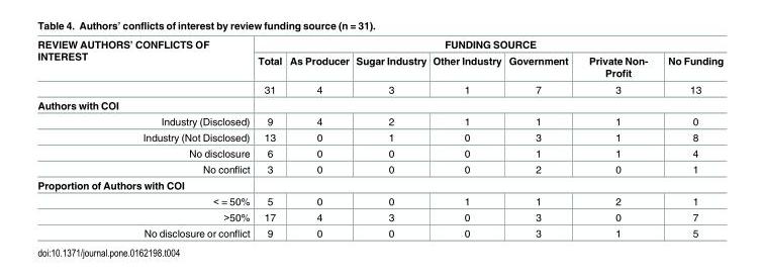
<table><thead><tr><td rowspan="2">REVIEW AUTHORS’ CONFLICTS OF INTEREST</td><td colspan="7">FUNDING SOURCE</td></tr><tr><td>Total</td><td>As Producer</td><td>Sugar Industry</td><td>Other Industry</td><td>Government</td><td>Private Non- Profit</td><td>No Funding</td></tr></thead><tbody><tr><td></td><td>31</td><td>4</td><td>3</td><td>1</td><td>7</td><td>3</td><td>13</td></tr><tr><td colspan="8">Authors with COI</td></tr><tr><td>Industry (Disclosed)</td><td>9</td><td>4</td><td>2</td><td>1</td><td>1</td><td>1</td><td>0</td></tr><tr><td>Industry (Not Disclosed)</td><td>13</td><td>0</td><td>1</td><td>0</td><td>3</td><td>1</td><td>8</td></tr><tr><td>No disclosure</td><td>6</td><td>0</td><td>0</td><td>0</td><td>1</td><td>1</td><td>4</td></tr><tr><td>No conflict</td><td>3</td><td>0</td><td>0</td><td>0</td><td>2</td><td>0</td><td>1</td></tr><tr><td colspan="8">Proportion of Authors with COI</td></tr><tr><td>&lt; = 50%</td><td>5</td><td>0</td><td>0</td><td>1</td><td>1</td><td>2</td><td>1</td></tr><tr><td>&gt;50%</td><td>17</td><td>4</td><td>3</td><td>0</td><td>3</td><td>0</td><td>7</td></tr><tr><td>No disclosure or conflict</td><td>9</td><td>0</td><td>0</td><td>0</td><td>3</td><td>1</td><td>5</td></tr></tbody></table>